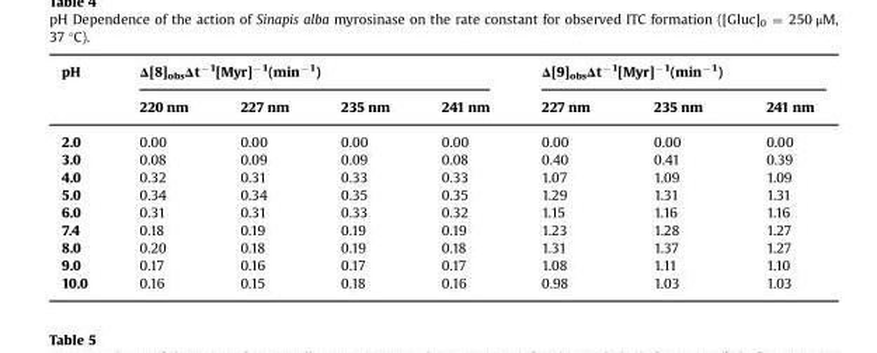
<table><thead><tr><td rowspan="2">pH</td><td colspan="4">Δ[8]<sub>obs</sub>Δt<sup>−1</sup>[Myr]<sup>−1</sup>(min<sup>−1</sup>)</td><td colspan="3">Δ[9]<sub>obs</sub>Δt<sup>−1</sup>[Myr]<sup>−1</sup>(min<sup>−1</sup>)</td></tr><tr><td>220 nm</td><td>227 nm</td><td>235 nm</td><td>241 nm</td><td>227 nm</td><td>235 nm</td><td>241 nm</td></tr></thead><tbody><tr><td>2.0</td><td>0.00</td><td>0.00</td><td>0.00</td><td>0.00</td><td>0.00</td><td>0.00</td><td>0.00</td></tr><tr><td>3.0</td><td>0.08</td><td>0.09</td><td>0.09</td><td>0.08</td><td>0.40</td><td>0.41</td><td>0.39</td></tr><tr><td>4.0</td><td>0.32</td><td>0.31</td><td>0.33</td><td>0.33</td><td>1.07</td><td>1.09</td><td>1.09</td></tr><tr><td>5.0</td><td>0.34</td><td>0.34</td><td>0.35</td><td>0.35</td><td>1.29</td><td>1.31</td><td>1.31</td></tr><tr><td>6.0</td><td>0.31</td><td>0.31</td><td>0.33</td><td>0.32</td><td>1.15</td><td>1.16</td><td>1.16</td></tr><tr><td>7.4</td><td>0.18</td><td>0.19</td><td>0.19</td><td>0.19</td><td>1.23</td><td>1.28</td><td>1.27</td></tr><tr><td>8.0</td><td>0.20</td><td>0.18</td><td>0.19</td><td>0.18</td><td>1.31</td><td>1.37</td><td>1.27</td></tr><tr><td>9.0</td><td>0.17</td><td>0.16</td><td>0.17</td><td>0.17</td><td>1.08</td><td>1.11</td><td>1.10</td></tr><tr><td>10.0</td><td>0.16</td><td>0.15</td><td>0.18</td><td>0.16</td><td>0.98</td><td>1.03</td><td>1.03</td></tr></tbody></table>